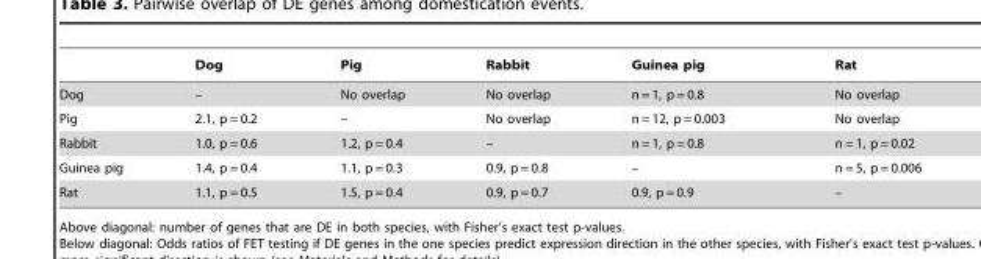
<table><thead><tr><td></td><td>Dog</td><td>Pig</td><td>Rabbit</td><td>Guinea pig</td><td>Rat</td></tr></thead><tbody><tr><td>Dog</td><td>–</td><td>No overlap</td><td>No overlap</td><td>n = 1, p = 0.8</td><td>No overlap</td></tr><tr><td>Pig</td><td>2.1, p = 0.2</td><td>–</td><td>No overlap</td><td>n = 12, p = 0.003</td><td>No overlap</td></tr><tr><td>Rabbit</td><td>1.0, p = 0.6</td><td>1.2, p = 0.4</td><td>–</td><td>n = 1, p = 0.8</td><td>n = 1, p = 0.02</td></tr><tr><td>Guinea pig</td><td>1.4, p = 0.4</td><td>1.1, p = 0.3</td><td>0.9, p = 0.8</td><td>–</td><td>n = 5, p = 0.006</td></tr><tr><td>Rat</td><td>1.1, p = 0.5</td><td>1.5, p = 0.4</td><td>0.9, p = 0.7</td><td>0.9, p = 0.9</td><td>–</td></tr></tbody></table>